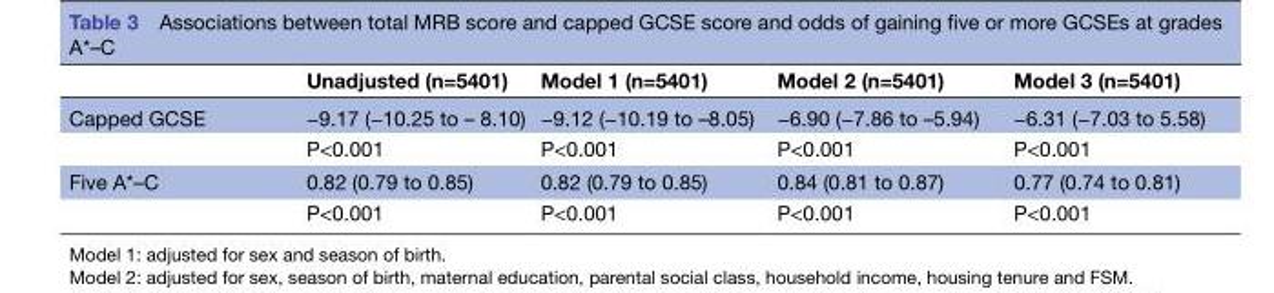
<table><thead><tr><td></td><td>Unadjusted (n=5401)</td><td>Model 1 (n=5401)</td><td>Model 2 (n=5401)</td><td>Model 3 (n=5401)</td></tr></thead><tbody><tr><td rowspan="2">Capped GCSE</td><td>−9.17 (−10.25 to – 8.10)</td><td>−9.12 (−10.19 to –8.05)</td><td>−6.90 (−7.86 to –5.94)</td><td>−6.31 (−7.03 to 5.58)</td></tr><tr><td>P&lt;0.001</td><td>P&lt;0.001</td><td>P&lt;0.001</td><td>P&lt;0.001</td></tr><tr><td rowspan="2">Five A*–C</td><td>0.82 (0.79 to 0.85)</td><td>0.82 (0.79 to 0.85)</td><td>0.84 (0.81 to 0.87)</td><td>0.77 (0.74 to 0.81)</td></tr><tr><td>P&lt;0.001</td><td>P&lt;0.001</td><td>P&lt;0.001</td><td>P&lt;0.001</td></tr></tbody></table>